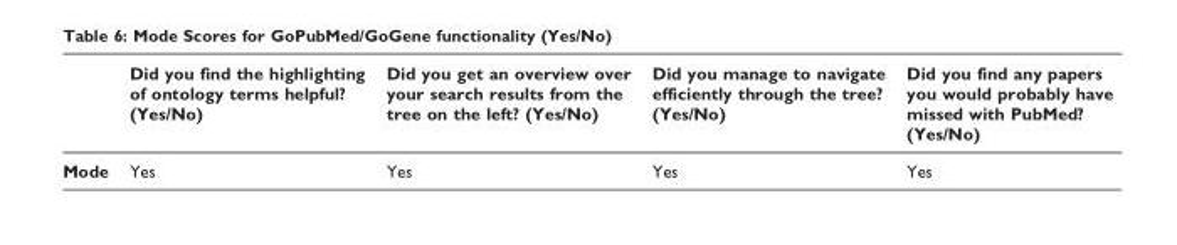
<table><thead><tr><td></td><td>Did you find the highlighting of ontology terms helpful? (Yes/No)</td><td>Did you get an overview over your search results from the tree on the left? (Yes/No)</td><td>Did you manage to navigate efficiently through the tree? (Yes/No)</td><td>Did you find any papers you would probably have missed with PubMed? (Yes/No)</td></tr></thead><tbody><tr><td>Mode</td><td>Yes</td><td>Yes</td><td>Yes</td><td>Yes</td></tr></tbody></table>